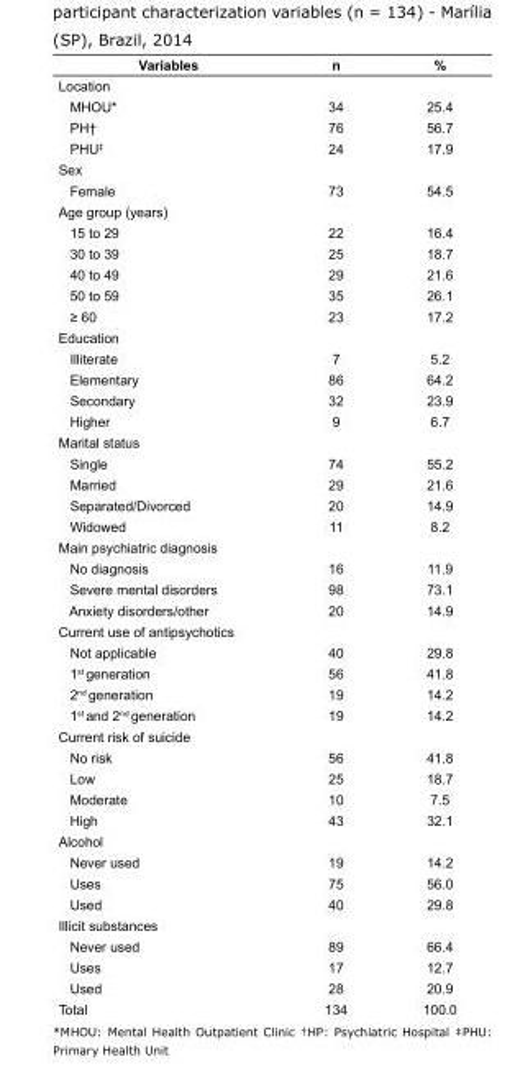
<table><tbody><tr><td>Variables</td><td>n</td><td>%</td></tr><tr><td colspan="3">Location</td></tr><tr><td>MHOU*</td><td>34</td><td>25.4</td></tr><tr><td>PH†</td><td>76</td><td>56.7</td></tr><tr><td>PHU<sup>‡</sup></td><td>24</td><td>17.9</td></tr><tr><td colspan="3">Sex</td></tr><tr><td>Female</td><td>73</td><td>54.5</td></tr><tr><td colspan="3">Age group (years)</td></tr><tr><td>15 to 29</td><td>22</td><td>16.4</td></tr><tr><td>30 to 39</td><td>25</td><td>18.7</td></tr><tr><td>40 to 49</td><td>29</td><td>21.6</td></tr><tr><td>50 to 59</td><td>35</td><td>26.1</td></tr><tr><td>≥ 60</td><td>23</td><td>17.2</td></tr><tr><td colspan="3">Education</td></tr><tr><td>Illiterate</td><td>7</td><td>5.2</td></tr><tr><td>Elementary</td><td>86</td><td>64.2</td></tr><tr><td>Secondary</td><td>32</td><td>23.9</td></tr><tr><td>Higher</td><td>9</td><td>6.7</td></tr><tr><td colspan="3">Marital status</td></tr><tr><td>Single</td><td>74</td><td>55.2</td></tr><tr><td>Married</td><td>29</td><td>21.6</td></tr><tr><td>Separated/Divorced</td><td>20</td><td>14.9</td></tr><tr><td>Widowed</td><td>11</td><td>8.2</td></tr><tr><td colspan="3">Main psychiatric diagnosis</td></tr><tr><td>No diagnosis</td><td>16</td><td>11.9</td></tr><tr><td>Severe mental disorders</td><td>98</td><td>73.1</td></tr><tr><td>Anxiety disorders/other</td><td>20</td><td>14.9</td></tr><tr><td colspan="3">Current use of antipsychotics</td></tr><tr><td>Not applicable</td><td>40</td><td>29.8</td></tr><tr><td>1<sup>st</sup> generation</td><td>56</td><td>41.8</td></tr><tr><td>2<sup>nd</sup> generation</td><td>19</td><td>14.2</td></tr><tr><td>1<sup>st</sup> and 2<sup>nd</sup> generation</td><td>19</td><td>14.2</td></tr><tr><td colspan="3">Current risk of suicide</td></tr><tr><td>No risk</td><td>56</td><td>41.8</td></tr><tr><td>Low</td><td>25</td><td>18.7</td></tr><tr><td>Moderate</td><td>10</td><td>7.5</td></tr><tr><td>High</td><td>43</td><td>32.1</td></tr><tr><td colspan="3">Alcohol</td></tr><tr><td>Never used</td><td>19</td><td>14.2</td></tr><tr><td>Uses</td><td>75</td><td>56.0</td></tr><tr><td>Used</td><td>40</td><td>29.8</td></tr><tr><td colspan="3">Illicit substances</td></tr><tr><td>Never used</td><td>89</td><td>66.4</td></tr><tr><td>Uses</td><td>17</td><td>12.7</td></tr><tr><td>Used</td><td>28</td><td>20.9</td></tr><tr><td>Total</td><td>134</td><td>100.0</td></tr></tbody></table>